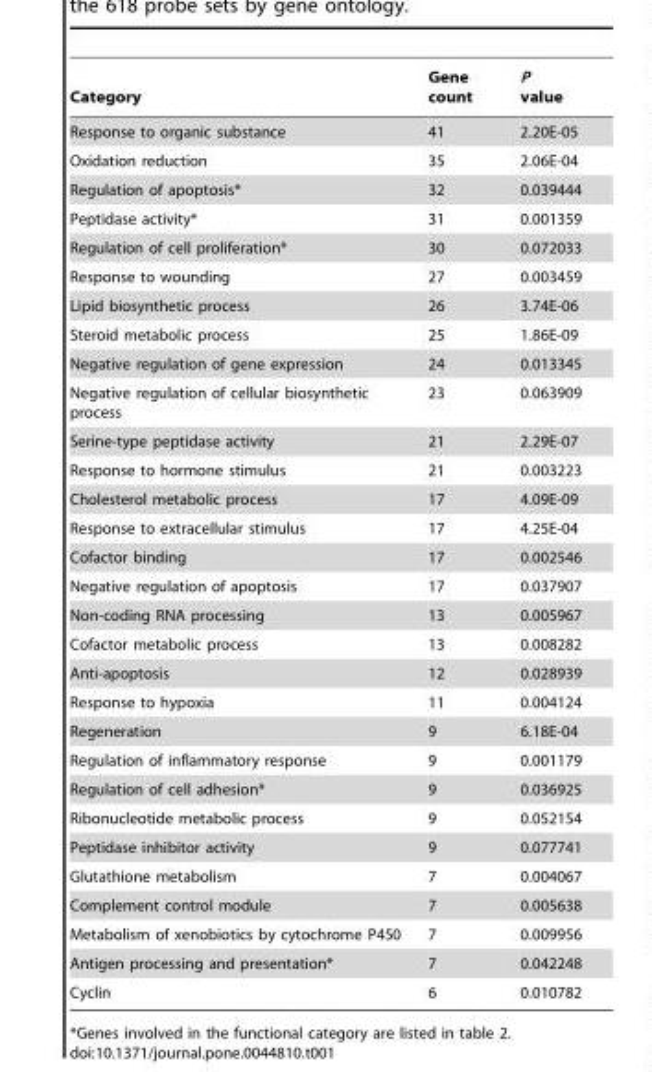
<table><thead><tr><td>Category</td><td>Gene count</td><td>P value</td></tr></thead><tbody><tr><td>Response to organic substance</td><td>41</td><td>2.20E-05</td></tr><tr><td>Oxidation reduction</td><td>35</td><td>2.06E-04</td></tr><tr><td>Regulation of apoptosis*</td><td>32</td><td>0.039444</td></tr><tr><td>Peptidase activity*</td><td>31</td><td>0.001359</td></tr><tr><td>Regulation of cell proliferation*</td><td>30</td><td>0.072033</td></tr><tr><td>Response to wounding</td><td>27</td><td>0.003459</td></tr><tr><td>Lipid biosynthetic process</td><td>26</td><td>3.74E-06</td></tr><tr><td>Steroid metabolic process</td><td>25</td><td>1.86E-09</td></tr><tr><td>Negative regulation of gene expression</td><td>24</td><td>0.013345</td></tr><tr><td>Negative regulation of cellular biosynthetic process</td><td>23</td><td>0.063909</td></tr><tr><td>Serine-type peptidase activity</td><td>21</td><td>2.29E-07</td></tr><tr><td>Response to hormone stimulus</td><td>21</td><td>0.003223</td></tr><tr><td>Cholesterol metabolic process</td><td>17</td><td>4.09E-09</td></tr><tr><td>Response to extracellular stimulus</td><td>17</td><td>4.25E-04</td></tr><tr><td>Cofactor binding</td><td>17</td><td>0.002546</td></tr><tr><td>Negative regulation of apoptosis</td><td>17</td><td>0.037907</td></tr><tr><td>Non-coding RNA processing</td><td>13</td><td>0.005967</td></tr><tr><td>Cofactor metabolic process</td><td>13</td><td>0.008282</td></tr><tr><td>Anti-apoptosis</td><td>12</td><td>0.028939</td></tr><tr><td>Response to hypoxia</td><td>11</td><td>0.004124</td></tr><tr><td>Regeneration</td><td>9</td><td>6.18E-04</td></tr><tr><td>Regulation of inflammatory response</td><td>9</td><td>0.001179</td></tr><tr><td>Regulation of cell adhesion*</td><td>9</td><td>0.036925</td></tr><tr><td>Ribonucleotide metabolic process</td><td>9</td><td>0.052154</td></tr><tr><td>Peptidase inhibitor activity</td><td>9</td><td>0.077741</td></tr><tr><td>Glutathione metabolism</td><td>7</td><td>0.004067</td></tr><tr><td>Complement control module</td><td>7</td><td>0.005638</td></tr><tr><td>Metabolism of xenobiotics by cytochrome P450</td><td>7</td><td>0.009956</td></tr><tr><td>Antigen processing and presentation*</td><td>7</td><td>0.042248</td></tr><tr><td>Cyclin</td><td>6</td><td>0.010782</td></tr></tbody></table>